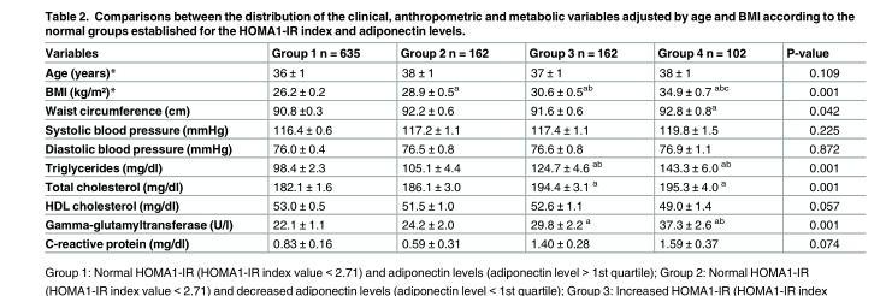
<table><thead><tr><td>Variables</td><td>Group 1 n = 635</td><td>Group 2 n = 162</td><td>Group 3 n = 162</td><td>Group 4 n = 102</td><td>P-value</td></tr></thead><tbody><tr><td>Age (years)*</td><td>36 ± 1</td><td>38 ± 1</td><td>37 ± 1</td><td>38 ± 1</td><td>0.109</td></tr><tr><td>BMI (kg/m²)*</td><td>26.2 ± 0.2</td><td>28.9 ± 0.5<sup>a</sup></td><td>30.6 ± 0.5<sup>ab</sup></td><td>34.9 ± 0.7 <sup>abc</sup></td><td>0.001</td></tr><tr><td>Waist circumference (cm)</td><td>90.8 ±0.3</td><td>92.2 ± 0.6</td><td>91.6 ± 0.6</td><td>92.8 ± 0.8<sup>a</sup></td><td>0.042</td></tr><tr><td>Systolic blood pressure (mmHg)</td><td>116.4 ± 0.6</td><td>117.2 ± 1.1</td><td>117.4 ± 1.1</td><td>119.8 ± 1.5</td><td>0.225</td></tr><tr><td>Diastolic blood pressure (mmHg)</td><td>76.0 ± 0.4</td><td>76.5 ± 0.8</td><td>76.6 ± 0.8</td><td>76.9 ± 1.1</td><td>0.872</td></tr><tr><td>Triglycerides (mg/dl)</td><td>98.4 ± 2.3</td><td>105.1 ± 4.4</td><td>124.7 ± 4.6 <sup>ab</sup></td><td>143.3 ± 6.0 <sup>ab</sup></td><td>0.001</td></tr><tr><td>Total cholesterol (mg/dl)</td><td>182.1 ± 1.6</td><td>186.1 ± 3.0</td><td>194.4 ± 3.1 <sup>a</sup></td><td>195.3 ± 4.0 <sup>a</sup></td><td>0.001</td></tr><tr><td>HDL cholesterol (mg/dl)</td><td>53.0 ± 0.5</td><td>51.5 ± 1.0</td><td>52.6 ± 1.1</td><td>49.0 ± 1.4</td><td>0.057</td></tr><tr><td>Gamma-glutamyltransferase (U/l)</td><td>22.1 ± 1.1</td><td>24.2 ± 2.0</td><td>29.8 ± 2.2 <sup>a</sup></td><td>37.3 ± 2.6 <sup>ab</sup></td><td>0.001</td></tr><tr><td>C-reactive protein (mg/dl)</td><td>0.83 ± 0.16</td><td>0.59 ± 0.31</td><td>1.40 ± 0.28</td><td>1.59 ± 0.37</td><td>0.074</td></tr></tbody></table>